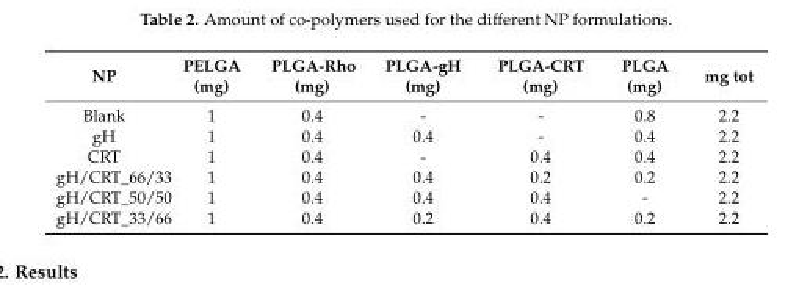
<table><thead><tr><td>NP</td><td>PELGA (mg)</td><td>PLGA-Rho (mg)</td><td>PLGA-gH (mg)</td><td>PLGA-CRT (mg)</td><td>PLGA (mg)</td><td>mg tot</td></tr></thead><tbody><tr><td>Blank</td><td>1</td><td>0.4</td><td>-</td><td>-</td><td>0.8</td><td>2.2</td></tr><tr><td>gH</td><td>1</td><td>0.4</td><td>0.4</td><td>-</td><td>0.4</td><td>2.2</td></tr><tr><td>CRT</td><td>1</td><td>0.4</td><td>-</td><td>0.4</td><td>0.4</td><td>2.2</td></tr><tr><td>gH/CRT_66/33</td><td>1</td><td>0.4</td><td>0.4</td><td>0.2</td><td>0.2</td><td>2.2</td></tr><tr><td>gH/CRT_50/50</td><td>1</td><td>0.4</td><td>0.4</td><td>0.4</td><td>-</td><td>2.2</td></tr><tr><td>gH/CRT_33/66</td><td>1</td><td>0.4</td><td>0.2</td><td>0.4</td><td>0.2</td><td>2.2</td></tr></tbody></table>